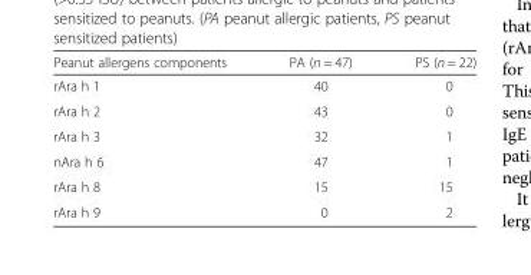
<table><thead><tr><td>Peanut allergens components</td><td>PA (n = 47)</td><td>PS (n = 22)</td></tr></thead><tbody><tr><td>rAra h 1</td><td>40</td><td>0</td></tr><tr><td>rAra h 2</td><td>43</td><td>0</td></tr><tr><td>rAra h 3</td><td>32</td><td>1</td></tr><tr><td>nAra h 6</td><td>47</td><td>1</td></tr><tr><td>rAra h 8</td><td>15</td><td>15</td></tr><tr><td>rAra h 9</td><td>0</td><td>2</td></tr></tbody></table>